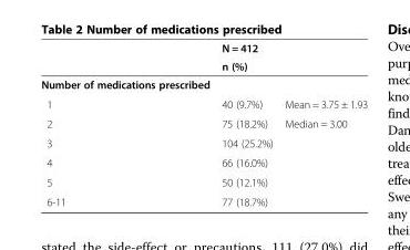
<table><thead><tr><td rowspan="2"></td><td rowspan="2">N = 412 n (%)</td><td rowspan="2"></td></tr><tr></tr></thead><tbody><tr><td colspan="3">Number of medications prescribed</td></tr><tr><td>1</td><td>40 (9.7%)</td><td>Mean = 3.75 ± 1.93</td></tr><tr><td>2</td><td>75 (18.2%)</td><td>Median = 3.00</td></tr><tr><td>3</td><td>104 (25.2%)</td><td></td></tr><tr><td>4</td><td>66 (16.0%)</td><td></td></tr><tr><td>5</td><td>50 (12.1%)</td><td></td></tr><tr><td>6-11</td><td>77 (18.7%)</td><td></td></tr></tbody></table>